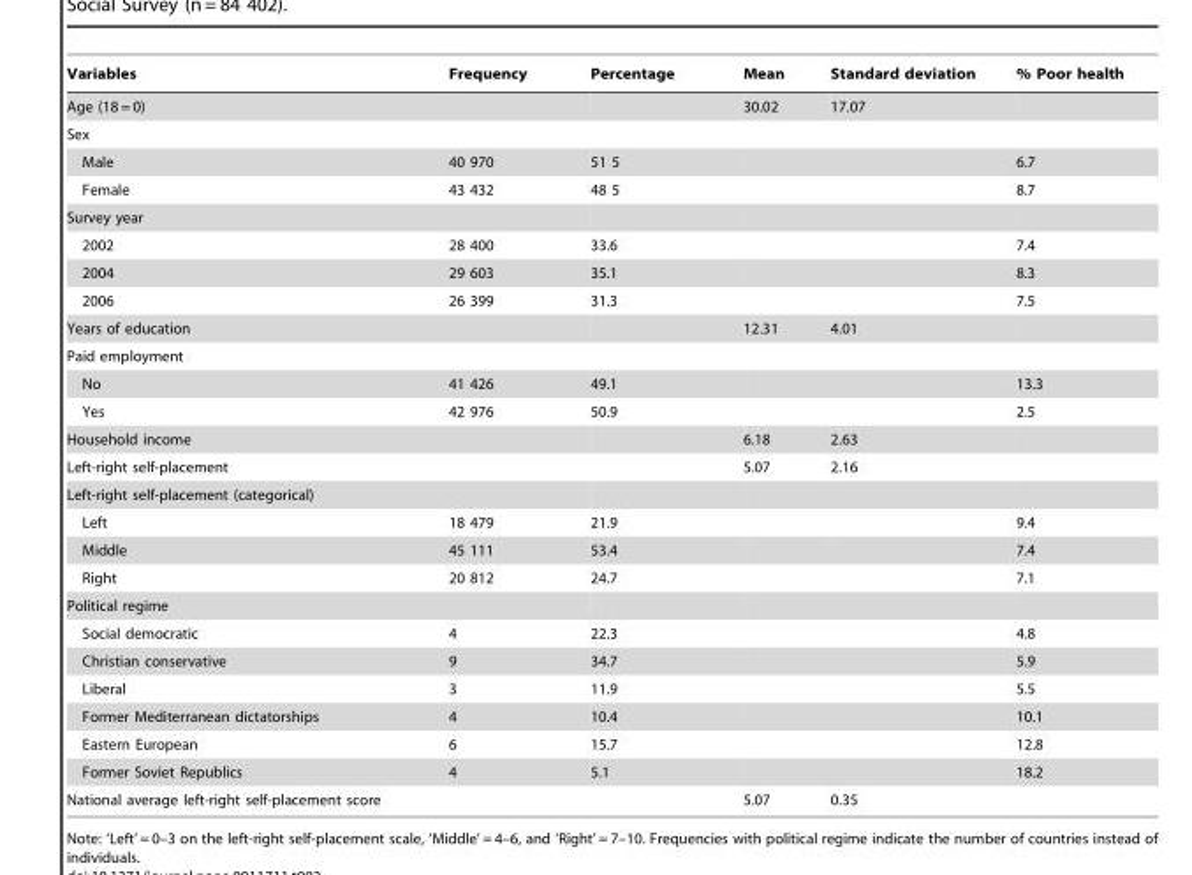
<table><thead><tr><td>Variables</td><td>Frequency</td><td>Percentage</td><td>Mean</td><td>Standard deviation</td><td>% Poor health</td></tr></thead><tbody><tr><td>Age (18 = 0)</td><td></td><td></td><td>30.02</td><td>17.07</td><td></td></tr><tr><td colspan="6">Sex</td></tr><tr><td>Male</td><td>40 970</td><td>51 5</td><td></td><td></td><td>6.7</td></tr><tr><td>Female</td><td>43 432</td><td>48 5</td><td></td><td></td><td>8.7</td></tr><tr><td colspan="6">Survey year</td></tr><tr><td>2002</td><td>28 400</td><td>33.6</td><td></td><td></td><td>7.4</td></tr><tr><td>2004</td><td>29 603</td><td>35.1</td><td></td><td></td><td>8.3</td></tr><tr><td>2006</td><td>26 399</td><td>31.3</td><td></td><td></td><td>7.5</td></tr><tr><td>Years of education</td><td></td><td></td><td>12.31</td><td>4.01</td><td></td></tr><tr><td colspan="6">Paid employment</td></tr><tr><td>No</td><td>41 426</td><td>49.1</td><td></td><td></td><td>13.3</td></tr><tr><td>Yes</td><td>42 976</td><td>50.9</td><td></td><td></td><td>2.5</td></tr><tr><td>Household income</td><td></td><td></td><td>6.18</td><td>2.63</td><td></td></tr><tr><td>Left-right self-placement</td><td></td><td></td><td>5.07</td><td>2.16</td><td></td></tr><tr><td colspan="6">Left-right self-placement (categorical)</td></tr><tr><td>Left</td><td>18 479</td><td>21.9</td><td></td><td></td><td>9.4</td></tr><tr><td>Middle</td><td>45 111</td><td>53.4</td><td></td><td></td><td>7.4</td></tr><tr><td>Right</td><td>20 812</td><td>24.7</td><td></td><td></td><td>7.1</td></tr><tr><td colspan="6">Political regime</td></tr><tr><td>Social democratic</td><td>4</td><td>22.3</td><td></td><td></td><td>4.8</td></tr><tr><td>Christian conservative</td><td>9</td><td>34.7</td><td></td><td></td><td>5.9</td></tr><tr><td>Liberal</td><td>3</td><td>11.9</td><td></td><td></td><td>5.5</td></tr><tr><td>Former Mediterranean dictatorships</td><td>4</td><td>10.4</td><td></td><td></td><td>10.1</td></tr><tr><td>Eastern European</td><td>6</td><td>15.7</td><td></td><td></td><td>12.8</td></tr><tr><td>Former Soviet Republics</td><td>4</td><td>5.1</td><td></td><td></td><td>18.2</td></tr><tr><td>National average left-right self-placement score</td><td></td><td></td><td>5.07</td><td>0.35</td><td></td></tr></tbody></table>